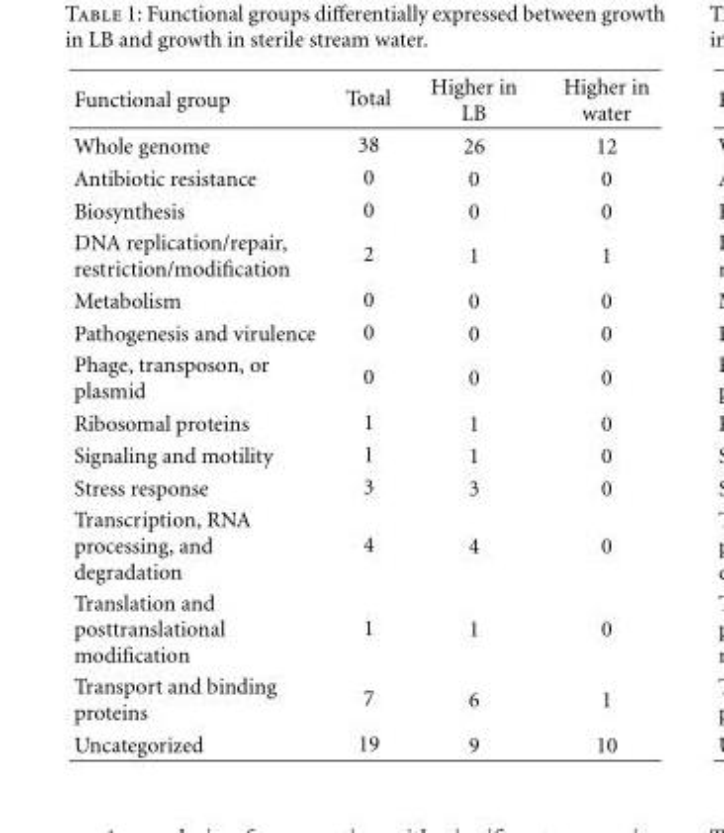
<table><thead><tr><td>Functional group</td><td>Total</td><td>Higher in LB</td><td>Higher in water</td></tr></thead><tbody><tr><td>Whole genome</td><td>38</td><td>26</td><td>12</td></tr><tr><td>Antibiotic resistance</td><td>0</td><td>0</td><td>0</td></tr><tr><td>Biosynthesis</td><td>0</td><td>0</td><td>0</td></tr><tr><td>DNA replication/repair, restriction/modification</td><td>2</td><td>1</td><td>1</td></tr><tr><td>Metabolism</td><td>0</td><td>0</td><td>0</td></tr><tr><td>Pathogenesis and virulence</td><td>0</td><td>0</td><td>0</td></tr><tr><td>Phage, transposon, or plasmid</td><td>0</td><td>0</td><td>0</td></tr><tr><td>Ribosomal proteins</td><td>1</td><td>1</td><td>0</td></tr><tr><td>Signaling and motility</td><td>1</td><td>1</td><td>0</td></tr><tr><td>Stress response</td><td>3</td><td>3</td><td>0</td></tr><tr><td>Transcription, RNA processing, and degradation</td><td>4</td><td>4</td><td>0</td></tr><tr><td>Translation and posttranslational modification</td><td>1</td><td>1</td><td>0</td></tr><tr><td>Transport and binding proteins</td><td>7</td><td>6</td><td>1</td></tr><tr><td>Uncategorized</td><td>19</td><td>9</td><td>10</td></tr></tbody></table>